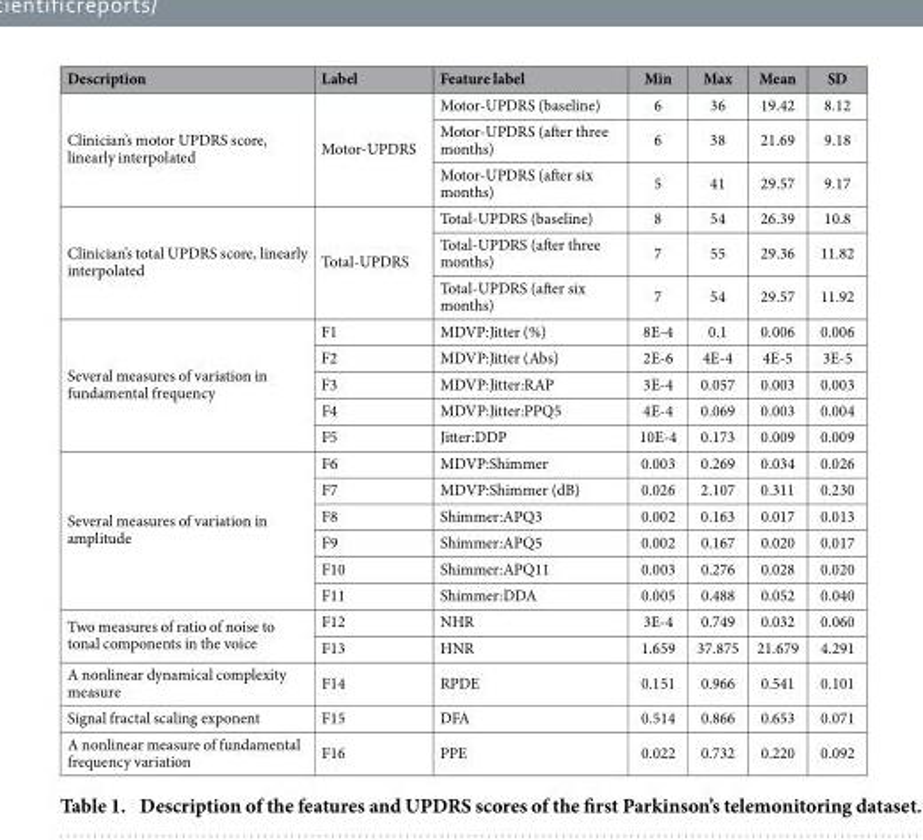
<table><thead><tr><td>Description</td><td>Label</td><td>Feature label</td><td>Min</td><td>Max</td><td>Mean</td><td>SD</td></tr></thead><tbody><tr><td rowspan="3">Clinician’s motor UPDRS score, linearly interpolated</td><td rowspan="3">Motor-UPDRS</td><td>Motor-UPDRS (baseline)</td><td>6</td><td>36</td><td>19.42</td><td>8.12</td></tr><tr><td>Motor-UPDRS (after three months)</td><td>6</td><td>38</td><td>21.69</td><td>9.18</td></tr><tr><td>Motor-UPDRS (after six months)</td><td>5</td><td>41</td><td>29.57</td><td>9.17</td></tr><tr><td rowspan="3">Clinician’s total UPDRS score, linearly interpolated</td><td rowspan="3">Total-UPDRS</td><td>Total-UPDRS (baseline)</td><td>8</td><td>54</td><td>26.39</td><td>10.8</td></tr><tr><td>Total-UPDRS (after three months)</td><td>7</td><td>55</td><td>29.36</td><td>11.82</td></tr><tr><td>Total-UPDRS (after six months)</td><td>7</td><td>54</td><td>29.57</td><td>11.92</td></tr><tr><td rowspan="5">Several measures of variation in fundamental frequency</td><td>F1</td><td>MDVP:Jitter (%)</td><td>8E-4</td><td>0.1</td><td>0.006</td><td>0.006</td></tr><tr><td>F2</td><td>MDVP:Jitter (Abs)</td><td>2E-6</td><td>4E-4</td><td>4E-5</td><td>3E-5</td></tr><tr><td>F3</td><td>MDVP:Jitter:RAP</td><td>3E-4</td><td>0.057</td><td>0.003</td><td>0.003</td></tr><tr><td>F4</td><td>MDVP:Jitter:PPQ5</td><td>4E-4</td><td>0.069</td><td>0.003</td><td>0.004</td></tr><tr><td>F5</td><td>Jitter:DDP</td><td>10E-4</td><td>0.173</td><td>0.009</td><td>0.009</td></tr><tr><td rowspan="6">Several measures of variation in amplitude</td><td>F6</td><td>MDVP:Shimmer</td><td>0.003</td><td>0.269</td><td>0.034</td><td>0.026</td></tr><tr><td>F7</td><td>MDVP:Shimmer (dB)</td><td>0.026</td><td>2.107</td><td>0.311</td><td>0.230</td></tr><tr><td>F8</td><td>Shimmer:APQ3</td><td>0.002</td><td>0.163</td><td>0.017</td><td>0.013</td></tr><tr><td>F9</td><td>Shimmer:APQ5</td><td>0.002</td><td>0.167</td><td>0.020</td><td>0.017</td></tr><tr><td>F10</td><td>Shimmer:APQ11</td><td>0.003</td><td>0.276</td><td>0.028</td><td>0.020</td></tr><tr><td>F11</td><td>Shimmer:DDA</td><td>0.005</td><td>0.488</td><td>0.052</td><td>0.040</td></tr><tr><td rowspan="2">Two measures of ratio of noise to tonal components in the voice</td><td>F12</td><td>NHR</td><td>3E-4</td><td>0.749</td><td>0.032</td><td>0.060</td></tr><tr><td>F13</td><td>HNR</td><td>1.659</td><td>37.875</td><td>21.679</td><td>4.291</td></tr><tr><td>A nonlinear dynamical complexity measure</td><td>F14</td><td>RPDE</td><td>0.151</td><td>0.966</td><td>0.541</td><td>0.101</td></tr><tr><td>Signal fractal scaling exponent</td><td>F15</td><td>DFA</td><td>0.514</td><td>0.866</td><td>0.653</td><td>0.071</td></tr><tr><td>A nonlinear measure of fundamental frequency variation</td><td>F16</td><td>PPE</td><td>0.022</td><td>0.732</td><td>0.220</td><td>0.092</td></tr></tbody></table>